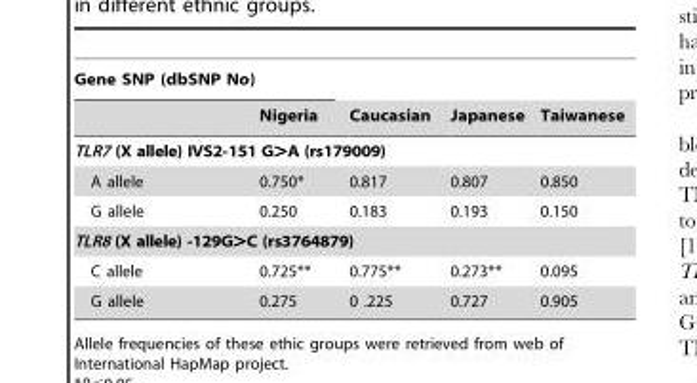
<table><thead><tr><td colspan="2">Gene SNP (dbSNP No)</td><td rowspan="2">Caucasian</td><td rowspan="2">Japanese</td><td rowspan="2">Taiwanese</td></tr><tr><td></td><td>Nigeria</td></tr></thead><tbody><tr><td colspan="5">TLR7 (X allele) IVS2-151 G&gt;A (rs179009)</td></tr><tr><td>A allele</td><td>0.750*</td><td>0.817</td><td>0.807</td><td>0.850</td></tr><tr><td>G allele</td><td>0.250</td><td>0.183</td><td>0.193</td><td>0.150</td></tr><tr><td colspan="5">TLR8 (X allele) -129G&gt;C (rs3764879)</td></tr><tr><td>C allele</td><td>0.725**</td><td>0.775**</td><td>0.273**</td><td>0.095</td></tr><tr><td>G allele</td><td>0.275</td><td>0 .225</td><td>0.727</td><td>0.905</td></tr></tbody></table>